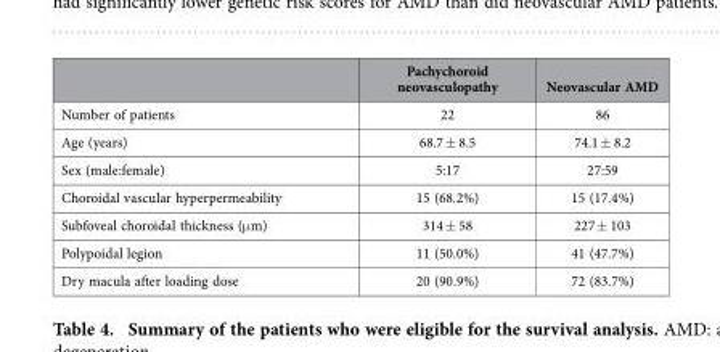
<table><thead><tr><td></td><td>Pachychoroid neovasculopathy</td><td>Neovascular AMD</td></tr></thead><tbody><tr><td>Number of patients</td><td>22</td><td>86</td></tr><tr><td>Age (years)</td><td>68.7 ± 8.5</td><td>74.1 ± 8.2</td></tr><tr><td>Sex (male:female)</td><td>5:17</td><td>27:59</td></tr><tr><td>Choroidal vascular hyperpermeability</td><td>15 (68.2%)</td><td>15 (17.4%)</td></tr><tr><td>Subfoveal choroidal thickness (μ m)</td><td>314 ± 58</td><td>227 ± 103</td></tr><tr><td>Polypoidal legion</td><td>11 (50.0%)</td><td>41 (47.7%)</td></tr><tr><td>Dry macula after loading dose</td><td>20 (90.9%)</td><td>72 (83.7%)</td></tr></tbody></table>